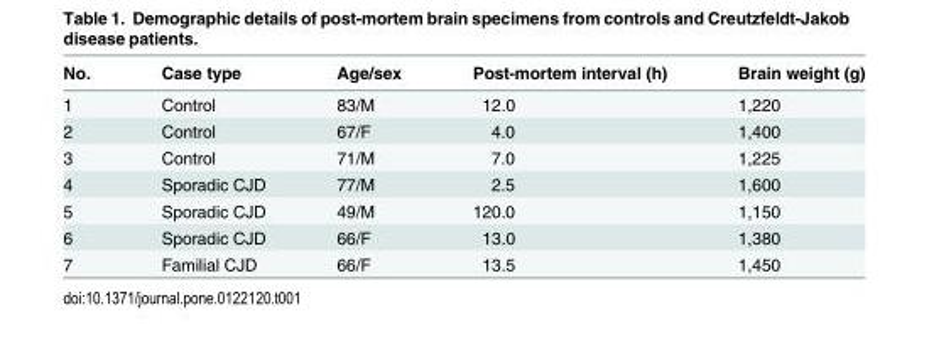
<table><thead><tr><td>No.</td><td>Case type</td><td>Age/sex</td><td>Post-mortem interval (h)</td><td>Brain weight (g)</td></tr></thead><tbody><tr><td>1</td><td>Control</td><td>83/M</td><td>12.0</td><td>1,220</td></tr><tr><td>2</td><td>Control</td><td>67/F</td><td>4.0</td><td>1,400</td></tr><tr><td>3</td><td>Control</td><td>71/M</td><td>7.0</td><td>1,225</td></tr><tr><td>4</td><td>Sporadic CJD</td><td>77/M</td><td>2.5</td><td>1,600</td></tr><tr><td>5</td><td>Sporadic CJD</td><td>49/M</td><td>120.0</td><td>1,150</td></tr><tr><td>6</td><td>Sporadic CJD</td><td>66/F</td><td>13.0</td><td>1,380</td></tr><tr><td>7</td><td>Familial CJD</td><td>66/F</td><td>13.5</td><td>1,450</td></tr></tbody></table>